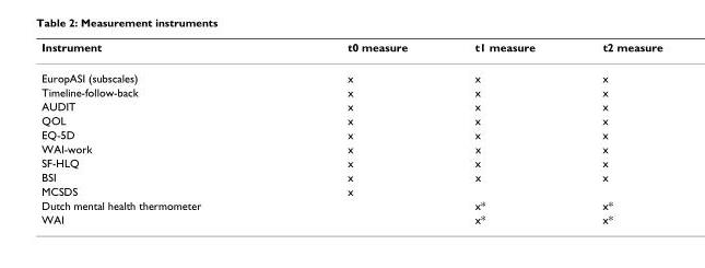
<table><thead><tr><td>Instrument</td><td>t0 measure</td><td>t1 measure</td><td>t2 measure</td></tr></thead><tbody><tr><td>EuropASI (subscales)</td><td>x</td><td>x</td><td>x</td></tr><tr><td>Timeline-follow-back</td><td>x</td><td>x</td><td>x</td></tr><tr><td>AUDIT</td><td>x</td><td>x</td><td>x</td></tr><tr><td>QOL</td><td>x</td><td>x</td><td>x</td></tr><tr><td>EQ-5D</td><td>x</td><td>x</td><td>x</td></tr><tr><td>WAI-work</td><td>x</td><td>x</td><td>x</td></tr><tr><td>SF-HLQ</td><td>x</td><td>x</td><td>x</td></tr><tr><td>BSI</td><td>x</td><td>x</td><td>x</td></tr><tr><td>MCSDS</td><td>x</td><td></td><td></td></tr><tr><td>Dutch mental health thermometer</td><td></td><td>x*</td><td>x*</td></tr><tr><td>WAI</td><td></td><td>x*</td><td>x*</td></tr></tbody></table>